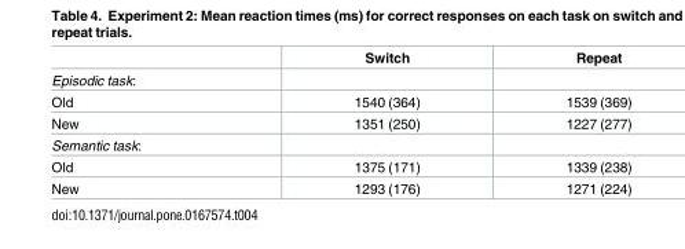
<table><thead><tr><td></td><td>Switch</td><td>Repeat</td></tr></thead><tbody><tr><td colspan="3">Episodic task:</td></tr><tr><td>Old</td><td>1540 (364)</td><td>1539 (369)</td></tr><tr><td>New</td><td>1351 (250)</td><td>1227 (277)</td></tr><tr><td colspan="3">Semantic task:</td></tr><tr><td>Old</td><td>1375 (171)</td><td>1339 (238)</td></tr><tr><td>New</td><td>1293 (176)</td><td>1271 (224)</td></tr></tbody></table>